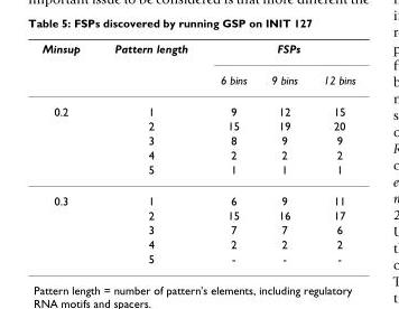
<table><thead><tr><td rowspan="2">Minsup</td><td rowspan="2">Pattern length</td><td colspan="3">FSPs</td></tr><tr><td>6 bins</td><td>9 bins</td><td>12 bins</td></tr></thead><tbody><tr><td rowspan="5">0.2</td><td>1</td><td>9</td><td>12</td><td>15</td></tr><tr><td>2</td><td>15</td><td>19</td><td>20</td></tr><tr><td>3</td><td>8</td><td>9</td><td>9</td></tr><tr><td>4</td><td>2</td><td>2</td><td>2</td></tr><tr><td>5</td><td>1</td><td>1</td><td>1</td></tr><tr><td rowspan="5">0.3</td><td>1</td><td>6</td><td>9</td><td>11</td></tr><tr><td>2</td><td>15</td><td>16</td><td>17</td></tr><tr><td>3</td><td>7</td><td>7</td><td>6</td></tr><tr><td>4</td><td>2</td><td>2</td><td>2</td></tr><tr><td>5</td><td>-</td><td>-</td><td>-</td></tr></tbody></table>